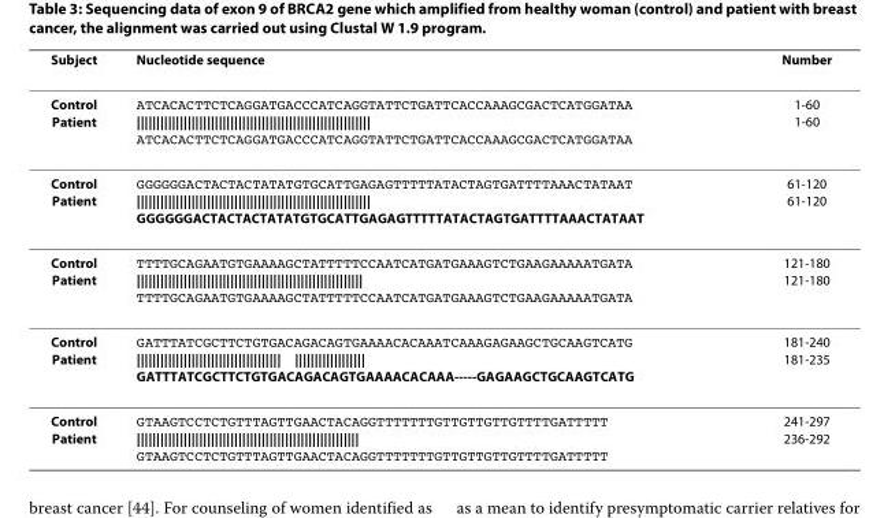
<table><thead><tr><td>Subject</td><td>Nucleotide sequence</td><td>Number</td></tr></thead><tbody><tr><td>Control Patient</td><td>ATCACACTTCTCAGGATGACCCATCAGGTATTCTGATTCACCAAAGCGACTCATGGATAA |||||||||||||||||||||||||||||||||||||||||||||||||||||||||||| ATCACACTTCTCAGGATGACCCATCAGGTATTCTGATTCACCAAAGCGACTCATGGATAA</td><td>1-60 1-60</td></tr><tr><td>Control Patient</td><td>GGGGGGACTACTACTATATGTGCATTGAGAGTTTTTATACTAGTGATTTTAAACTATAAT |||||||||||||||||||||||||||||||||||||||||||||||||||||||||||| GGGGGGACTACTACTATATGTGCATTGAGAGTTTTTATACTAGTGATTTTAAACTATAAT</td><td>61-120 61-120</td></tr><tr><td>Control Patient</td><td>TTTTGCAGAATGTGAAAAGCTATTTTTCCAATCATGATGAAAGTCTGAAGAAAAATGATA |||||||||||||||||||||||||||||||||||||||||||||||||||||||||| TTTTGCAGAATGTGAAAAGCTATTTTTCCAATCATGATGAAAGTCTGAAGAAAAATGATA</td><td>121-180 121-180</td></tr><tr><td>Control Patient</td><td>GATTTATCGCTTCTGTGACAGACAGTGAAAACACAAATCAAAGAGAAGCTGCAAGTCATG ||||||||||||||||||||||||||||||||||||| |||||||||||||||||| GATTTATCGCTTCTGTGACAGACAGTGAAAACACAAA-----GAGAAGCTGCAAGTCATG</td><td>181-240 181-235</td></tr><tr><td>Control Patient</td><td>GTAAGTCCTCTGTTTAGTTGAACTACAGGTTTTTTTGTTGTTGTTGTTTTGATTTTT ||||||||||||||||||||||||||||||||||||||||||||||||||||||||| GTAAGTCCTCTGTTTAGTTGAACTACAGGTTTTTTTGTTGTTGTTGTTTTGATTTTT</td><td>241-297 236-292</td></tr></tbody></table>